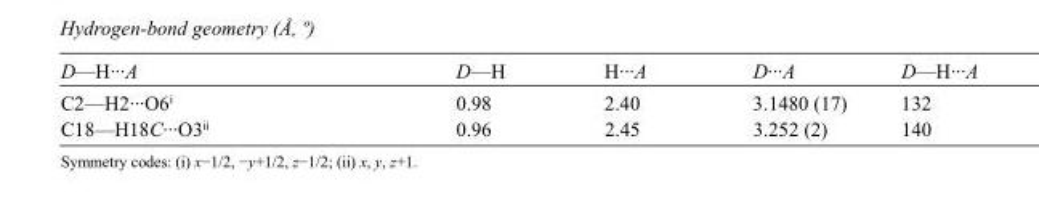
<table><tbody><tr><td>D—H···A</td><td>D—H</td><td>H···A</td><td>D···A</td><td>D—H···A</td></tr><tr><td>C2—H2···O6<sup>i</sup></td><td>0.98</td><td>2.40</td><td>3.1480 (17)</td><td>132</td></tr><tr><td>C18—H18C···O3<sup>ii</sup></td><td>0.96</td><td>2.45</td><td>3.252 (2)</td><td>140</td></tr></tbody></table>